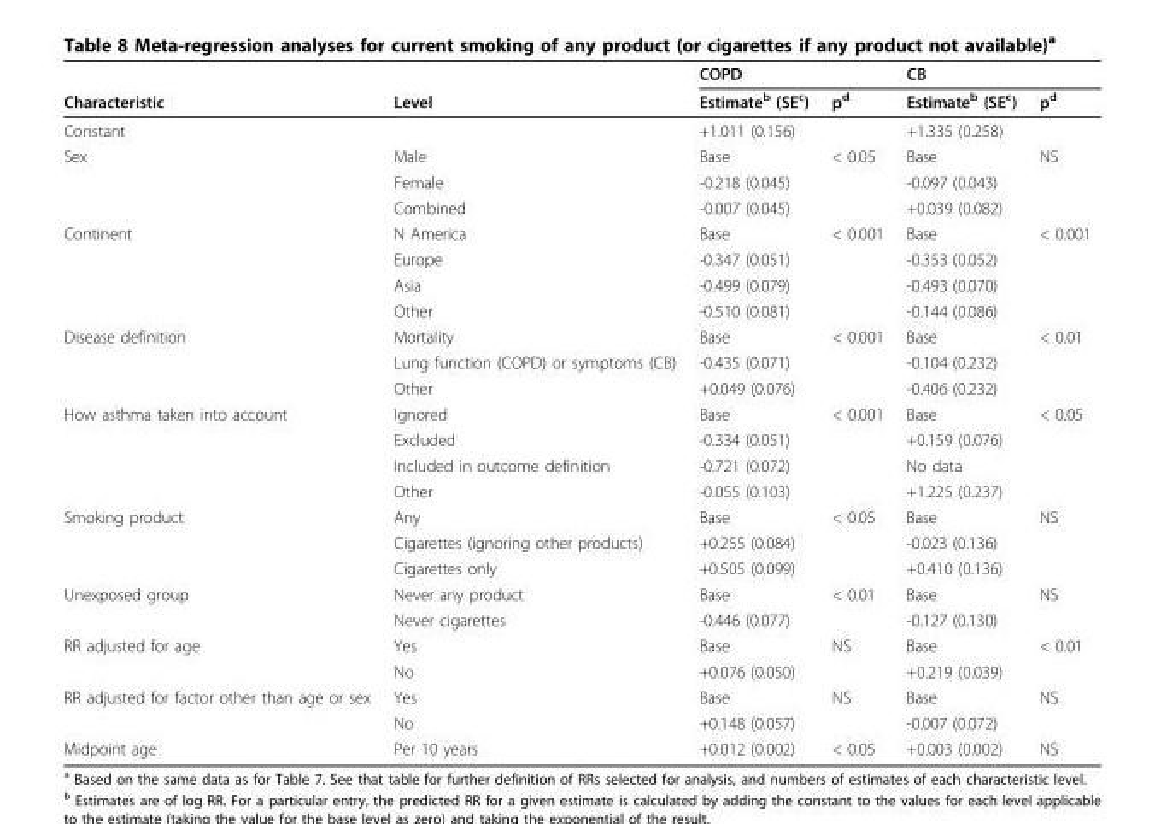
<table><thead><tr><td rowspan="2">Characteristic</td><td rowspan="2">Level</td><td colspan="2">COPD</td><td colspan="2">CB</td></tr><tr><td>Estimate<sup>b</sup> (SE<sup>c</sup>)</td><td>p<sup>d</sup></td><td>Estimate<sup>b</sup> (SE<sup>c</sup>)</td><td>p<sup>d</sup></td></tr></thead><tbody><tr><td>Constant</td><td></td><td>+1.011 (0.156)</td><td></td><td>+1.335 (0.258)</td><td></td></tr><tr><td rowspan="3">Sex</td><td>Male</td><td>Base</td><td>&lt; 0.05</td><td>Base</td><td>NS</td></tr><tr><td>Female</td><td>-0.218 (0.045)</td><td></td><td>-0.097 (0.043)</td><td></td></tr><tr><td>Combined</td><td>-0.007 (0.045)</td><td></td><td>+0.039 (0.082)</td><td></td></tr><tr><td rowspan="4">Continent</td><td>N America</td><td>Base</td><td>&lt; 0.001</td><td>Base</td><td>&lt; 0.001</td></tr><tr><td>Europe</td><td>-0.347 (0.051)</td><td></td><td>-0.353 (0.052)</td><td></td></tr><tr><td>Asia</td><td>-0.499 (0.079)</td><td></td><td>-0.493 (0.070)</td><td></td></tr><tr><td>Other</td><td>-0.510 (0.081)</td><td></td><td>-0.144 (0.086)</td><td></td></tr><tr><td rowspan="3">Disease definition</td><td>Mortality</td><td>Base</td><td>&lt; 0.001</td><td>Base</td><td>&lt; 0.01</td></tr><tr><td>Lung function (COPD) or symptoms (CB)</td><td>-0.435 (0.071)</td><td></td><td>-0.104 (0.232)</td><td></td></tr><tr><td>Other</td><td>+0.049 (0.076)</td><td></td><td>-0.406 (0.232)</td><td></td></tr><tr><td rowspan="4">How asthma taken into account</td><td>Ignored</td><td>Base</td><td>&lt; 0.001</td><td>Base</td><td>&lt; 0.05</td></tr><tr><td>Excluded</td><td>-0.334 (0.051)</td><td></td><td>+0.159 (0.076)</td><td></td></tr><tr><td>Included in outcome definition</td><td>-0.721 (0.072)</td><td></td><td>No data</td><td></td></tr><tr><td>Other</td><td>-0.055 (0.103)</td><td></td><td>+1.225 (0.237)</td><td></td></tr><tr><td rowspan="3">Smoking product</td><td>Any</td><td>Base</td><td>&lt; 0.05</td><td>Base</td><td>NS</td></tr><tr><td>Cigarettes (ignoring other products)</td><td>+0.255 (0.084)</td><td></td><td>-0.023 (0.136)</td><td></td></tr><tr><td>Cigarettes only</td><td>+0.505 (0.099)</td><td></td><td>+0.410 (0.136)</td><td></td></tr><tr><td rowspan="2">Unexposed group</td><td>Never any product</td><td>Base</td><td>&lt; 0.01</td><td>Base</td><td>NS</td></tr><tr><td>Never cigarettes</td><td>-0.446 (0.077)</td><td></td><td>-0.127 (0.130)</td><td></td></tr><tr><td rowspan="2">RR adjusted for age</td><td>Yes</td><td>Base</td><td>NS</td><td>Base</td><td>&lt; 0.01</td></tr><tr><td>No</td><td>+0.076 (0.050)</td><td></td><td>+0.219 (0.039)</td><td></td></tr><tr><td rowspan="2">RR adjusted for factor other than age or sex</td><td>Yes</td><td>Base</td><td>NS</td><td>Base</td><td>NS</td></tr><tr><td>No</td><td>+0.148 (0.057)</td><td></td><td>-0.007 (0.072)</td><td></td></tr><tr><td>Midpoint age</td><td>Per 10 years</td><td>+0.012 (0.002)</td><td>&lt; 0.05</td><td>+0.003 (0.002)</td><td>NS</td></tr></tbody></table>